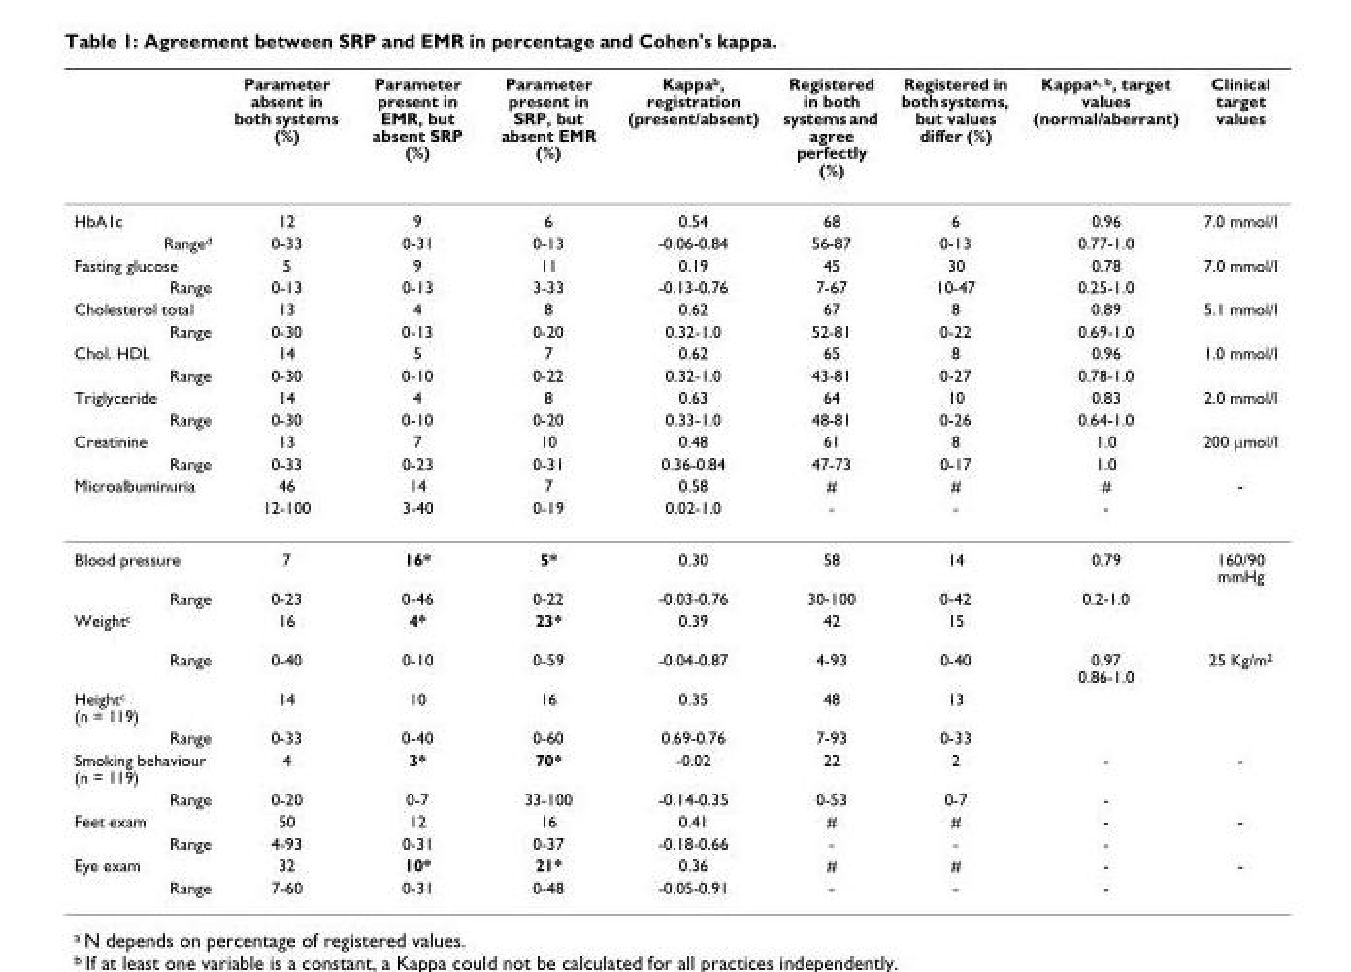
<table><thead><tr><td></td><td>Parameter absent in both systems (%)</td><td>Parameter present in EMR, but absent SRP (%)</td><td>Parameter present in SRP, but absent EMR (%)</td><td>Kappa<sup>b</sup>, registration (present/absent)</td><td>Registered in both systems and agree perfectly (%)</td><td>Registered in both systems, but values differ (%)</td><td>Kappa<sup>a, b</sup>, target values (normal/aberrant)</td><td>Clinical target values</td></tr></thead><tbody><tr><td>HbA1c</td><td>12</td><td>9</td><td>6</td><td>0.54</td><td>68</td><td>6</td><td>0.96</td><td>7.0 mmol/l</td></tr><tr><td>Range<sup>d</sup></td><td>0-33</td><td>0-31</td><td>0-13</td><td>-0.06-0.84</td><td>56-87</td><td>0-13</td><td>0.77-1.0</td><td></td></tr><tr><td>Fasting glucose</td><td>5</td><td>9</td><td>11</td><td>0.19</td><td>45</td><td>30</td><td>0.78</td><td>7.0 mmol/l</td></tr><tr><td>Range</td><td>0-13</td><td>0-13</td><td>3-33</td><td>-0.13-0.76</td><td>7-67</td><td>10-47</td><td>0.25-1.0</td><td></td></tr><tr><td>Cholesterol total</td><td>13</td><td>4</td><td>8</td><td>0.62</td><td>67</td><td>8</td><td>0.89</td><td>5.1 mmol/l</td></tr><tr><td>Range</td><td>0-30</td><td>0-13</td><td>0-20</td><td>0.32-1.0</td><td>52-81</td><td>0-22</td><td>0.69-1.0</td><td></td></tr><tr><td>Chol. HDL</td><td>14</td><td>5</td><td>7</td><td>0.62</td><td>65</td><td>8</td><td>0.96</td><td>1.0 mmol/l</td></tr><tr><td>Range</td><td>0-30</td><td>0-10</td><td>0-22</td><td>0.32-1.0</td><td>43-81</td><td>0-27</td><td>0.78-1.0</td><td></td></tr><tr><td>Triglyceride</td><td>14</td><td>4</td><td>8</td><td>0.63</td><td>64</td><td>10</td><td>0.83</td><td>2.0 mmol/l</td></tr><tr><td>Range</td><td>0-30</td><td>0-10</td><td>0-20</td><td>0.33-1.0</td><td>48-81</td><td>0-26</td><td>0.64-1.0</td><td></td></tr><tr><td>Creatinine</td><td>13</td><td>7</td><td>10</td><td>0.48</td><td>61</td><td>8</td><td>1.0</td><td>200 μmol/l</td></tr><tr><td>Range</td><td>0-33</td><td>0-23</td><td>0-31</td><td>0.36-0.84</td><td>47-73</td><td>0-17</td><td>1.0</td><td></td></tr><tr><td rowspan="2">Microalbuminuria</td><td>46</td><td>14</td><td>7</td><td>0.58</td><td>#</td><td>#</td><td>#</td><td>-</td></tr><tr><td>12-100</td><td>3-40</td><td>0-19</td><td>0.02-1.0</td><td>-</td><td>-</td><td>-</td><td></td></tr><tr><td>Blood pressure</td><td>7</td><td>16*</td><td>5*</td><td>0.30</td><td>58</td><td>14</td><td>0.79</td><td>160/90 mmHg</td></tr><tr><td>Range</td><td>0-23</td><td>0-46</td><td>0-22</td><td>-0.03-0.76</td><td>30-100</td><td>0-42</td><td>0.2-1.0</td><td></td></tr><tr><td>Weight<sup>c</sup></td><td>16</td><td>4*</td><td>23*</td><td>0.39</td><td>42</td><td>15</td><td></td><td></td></tr><tr><td>Range</td><td>0-40</td><td>0-10</td><td>0-59</td><td>-0.04-0.87</td><td>4-93</td><td>0-40</td><td>0.97 0.86-1.0</td><td>25 Kg/m<sup>2</sup></td></tr><tr><td>Height<sup>c</sup> (n = 119)</td><td>14</td><td>10</td><td>16</td><td>0.35</td><td>48</td><td>13</td><td></td><td></td></tr><tr><td>Range</td><td>0-33</td><td>0-40</td><td>0-60</td><td>0.69-0.76</td><td>7-93</td><td>0-33</td><td></td><td></td></tr><tr><td>Smoking behaviour (n = 119)</td><td>4</td><td>3*</td><td>70*</td><td>-0.02</td><td>22</td><td>2</td><td>-</td><td>-</td></tr><tr><td>Range</td><td>0-20</td><td>0-7</td><td>33-100</td><td>-0.14-0.35</td><td>0-53</td><td>0-7</td><td>-</td><td></td></tr><tr><td>Feet exam</td><td>50</td><td>12</td><td>16</td><td>0.41</td><td>#</td><td>#</td><td>-</td><td>-</td></tr><tr><td>Range</td><td>4-93</td><td>0-31</td><td>0-37</td><td>-0.18-0.66</td><td>-</td><td>-</td><td>-</td><td></td></tr><tr><td>Eye exam</td><td>32</td><td>10*</td><td>21*</td><td>0.36</td><td>#</td><td>#</td><td>-</td><td>-</td></tr><tr><td>Range</td><td>7-60</td><td>0-31</td><td>0-48</td><td>-0.05-0.91</td><td>-</td><td>-</td><td>-</td><td></td></tr></tbody></table>